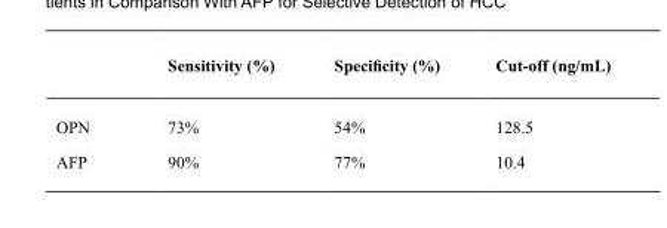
<table><thead><tr><td></td><td>Sensitivity (%)</td><td>Specificity (%)</td><td>Cut-off (ng/mL)</td></tr></thead><tbody><tr><td>OPN</td><td>73%</td><td>54%</td><td>128.5</td></tr><tr><td>AFP</td><td>90%</td><td>77%</td><td>10.4</td></tr></tbody></table>